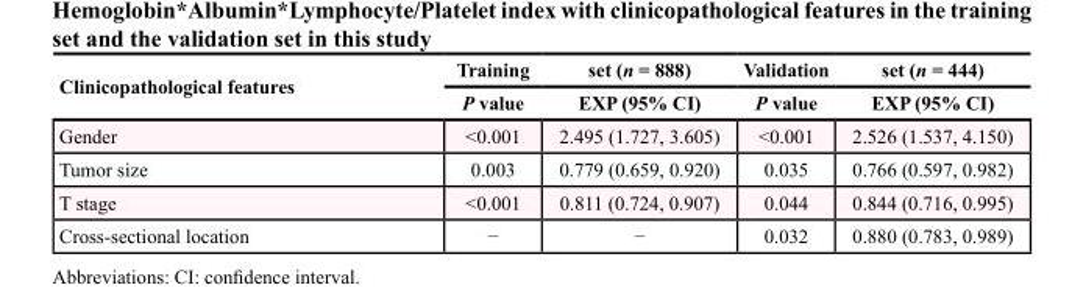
<table><thead><tr><td rowspan="2">Clinicopathological features</td><td rowspan="2">Training P value</td><td rowspan="2">set (n = 888) EXP (95% CI)</td><td rowspan="2">Validation P value</td><td rowspan="2">set (n = 444) EXP (95% CI)</td></tr><tr></tr></thead><tbody><tr><td>Gender</td><td>&lt;0.001</td><td>2.495 (1.727, 3.605)</td><td>&lt;0.001</td><td>2.526 (1.537, 4.150)</td></tr><tr><td>Tumor size</td><td>0.003</td><td>0.779 (0.659, 0.920)</td><td>0.035</td><td>0.766 (0.597, 0.982)</td></tr><tr><td>T stage</td><td>&lt;0.001</td><td>0.811 (0.724, 0.907)</td><td>0.044</td><td>0.844 (0.716, 0.995)</td></tr><tr><td>Cross-sectional location</td><td>−</td><td>−</td><td>0.032</td><td>0.880 (0.783, 0.989)</td></tr></tbody></table>